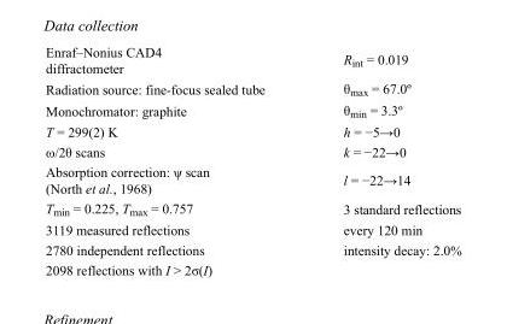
<table><tbody><tr><td>Enraf–Nonius CAD4 diffractometer</td><td>R<sub>int</sub> = 0.019</td></tr><tr><td>Radiation source: fine-focus sealed tube</td><td>θ<sub>max</sub> = 67.0º</td></tr><tr><td>Monochromator: graphite</td><td>θ<sub>min</sub> = 3.3º</td></tr><tr><td>T = 299(2) K</td><td>h = −5→0</td></tr><tr><td>ω/2θ scans</td><td>k = −22→0</td></tr><tr><td>Absorption correction: ψ scan (North et al., 1968)</td><td>l = −22→14</td></tr><tr><td>T<sub>min</sub> = 0.225, T<sub>max</sub> = 0.757</td><td>3 standard reflections</td></tr><tr><td>3119 measured reflections</td><td>every 120 min</td></tr><tr><td>2780 independent reflections</td><td>intensity decay: 2.0%</td></tr><tr><td>2098 reflections with I &gt; 2σ(I)</td><td></td></tr></tbody></table>